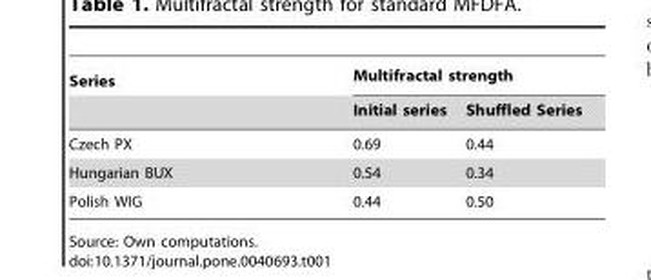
<table><thead><tr><td rowspan="2">Series</td><td colspan="2">Multifractal strength</td></tr><tr><td>Initial series</td><td>Shuffled Series</td></tr></thead><tbody><tr><td>Czech PX</td><td>0.69</td><td>0.44</td></tr><tr><td>Hungarian BUX</td><td>0.54</td><td>0.34</td></tr><tr><td>Polish WIG</td><td>0.44</td><td>0.50</td></tr></tbody></table>